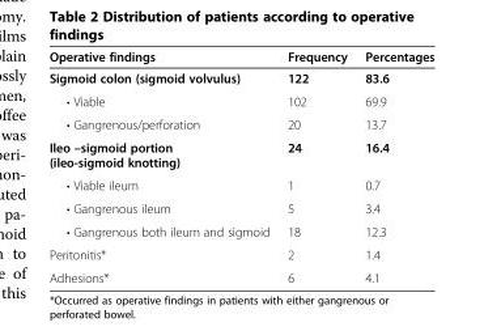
<table><thead><tr><td>Operative findings</td><td>Frequency</td><td>Percentages</td></tr></thead><tbody><tr><td>Sigmoid colon (sigmoid volvulus)</td><td>122</td><td>83.6</td></tr><tr><td>• Viable</td><td>102</td><td>69.9</td></tr><tr><td>• Gangrenous/perforation</td><td>20</td><td>13.7</td></tr><tr><td>Ileo –sigmoid portion (ileo-sigmoid knotting)</td><td>24</td><td>16.4</td></tr><tr><td>• Viable ileum</td><td>1</td><td>0.7</td></tr><tr><td>• Gangrenous ileum</td><td>5</td><td>3.4</td></tr><tr><td>• Gangrenous both ileum and sigmoid</td><td>18</td><td>12.3</td></tr><tr><td>Peritonitis*</td><td>2</td><td>1.4</td></tr><tr><td>Adhesions*</td><td>6</td><td>4.1</td></tr></tbody></table>